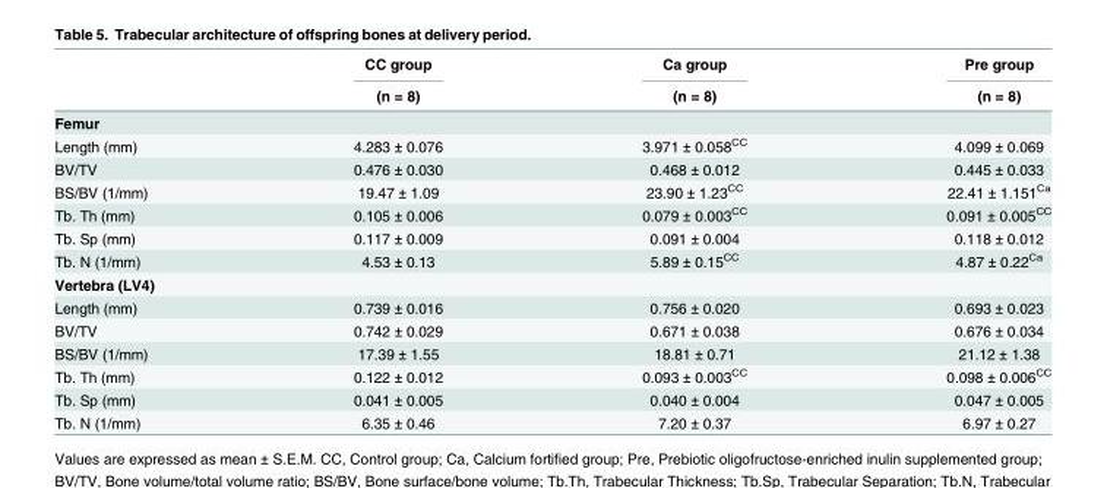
<table><thead><tr><td rowspan="2"></td><td rowspan="2">CC group (n = 8)</td><td rowspan="2">Ca group (n = 8)</td><td rowspan="2">Pre group (n = 8)</td></tr><tr></tr></thead><tbody><tr><td colspan="4">Femur</td></tr><tr><td>Length (mm)</td><td>4.283 ± 0.076</td><td>3.971 ± 0.058<sup>CC</sup></td><td>4.099 ± 0.069</td></tr><tr><td>BV/TV</td><td>0.476 ± 0.030</td><td>0.468 ± 0.012</td><td>0.445 ± 0.033</td></tr><tr><td>BS/BV (1/mm)</td><td>19.47 ± 1.09</td><td>23.90 ± 1.23<sup>CC</sup></td><td>22.41 ± 1.151<sup>Ca</sup></td></tr><tr><td>Tb. Th (mm)</td><td>0.105 ± 0.006</td><td>0.079 ± 0.003<sup>CC</sup></td><td>0.091 ± 0.005<sup>CC</sup></td></tr><tr><td>Tb. Sp (mm)</td><td>0.117 ± 0.009</td><td>0.091 ± 0.004</td><td>0.118 ± 0.012</td></tr><tr><td>Tb. N (1/mm)</td><td>4.53 ± 0.13</td><td>5.89 ± 0.15<sup>CC</sup></td><td>4.87 ± 0.22<sup>Ca</sup></td></tr><tr><td colspan="4">Vertebra (LV4)</td></tr><tr><td>Length (mm)</td><td>0.739 ± 0.016</td><td>0.756 ± 0.020</td><td>0.693 ± 0.023</td></tr><tr><td>BV/TV</td><td>0.742 ± 0.029</td><td>0.671 ± 0.038</td><td>0.676 ± 0.034</td></tr><tr><td>BS/BV (1/mm)</td><td>17.39 ± 1.55</td><td>18.81 ± 0.71</td><td>21.12 ± 1.38</td></tr><tr><td>Tb. Th (mm)</td><td>0.122 ± 0.012</td><td>0.093 ± 0.003<sup>CC</sup></td><td>0.098 ± 0.006<sup>CC</sup></td></tr><tr><td>Tb. Sp (mm)</td><td>0.041 ± 0.005</td><td>0.040 ± 0.004</td><td>0.047 ± 0.005</td></tr><tr><td>Tb. N (1/mm)</td><td>6.35 ± 0.46</td><td>7.20 ± 0.37</td><td>6.97 ± 0.27</td></tr></tbody></table>